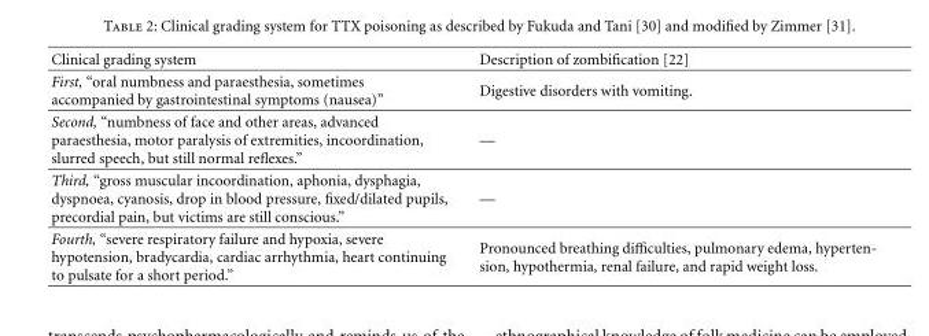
<table><thead><tr><td>Clinical grading system</td><td>Description of zombification [22]</td></tr></thead><tbody><tr><td>First, “oral numbness and paraesthesia, sometimes accompanied by gastrointestinal symptoms (nausea)”</td><td>Digestive disorders with vomiting.</td></tr><tr><td>Second, “numbness of face and other areas, advanced paraesthesia, motor paralysis of extremities, incoordination, slurred speech, but still normal reflexes.”</td><td>—</td></tr><tr><td>Third, “gross muscular incoordination, aphonia, dysphagia, dyspnoea, cyanosis, drop in blood pressure, fixed/dilated pupils, precordial pain, but victims are still conscious.”</td><td>—</td></tr><tr><td>Fourth, “severe respiratory failure and hypoxia, severe hypotension, bradycardia, cardiac arrhythmia, heart continuing to pulsate for a short period.”</td><td>Pronounced breathing difficulties, pulmonary edema, hyperten- sion, hypothermia, renal failure, and rapid weight loss.</td></tr></tbody></table>